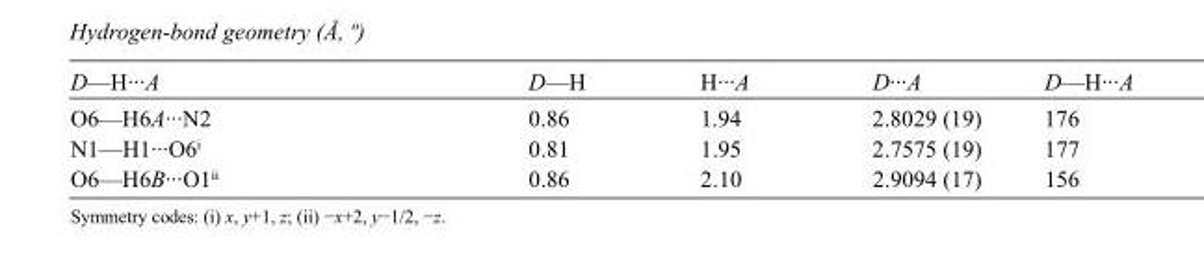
<table><tbody><tr><td>D—H···A</td><td>D—H</td><td>H···A</td><td>D···A</td><td>D—H···A</td></tr><tr><td>O6—H6A···N2</td><td>0.86</td><td>1.94</td><td>2.8029 (19)</td><td>176</td></tr><tr><td>N1—H1···O6<sup>i</sup></td><td>0.81</td><td>1.95</td><td>2.7575 (19)</td><td>177</td></tr><tr><td>O6—H6B···O1<sup>ii</sup></td><td>0.86</td><td>2.10</td><td>2.9094 (17)</td><td>156</td></tr></tbody></table>